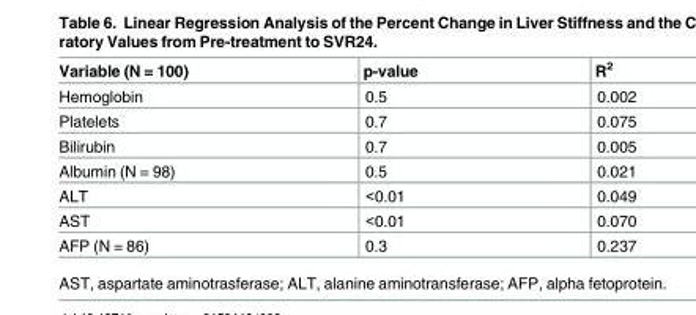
<table><thead><tr><td>Variable (N = 100)</td><td>p-value</td><td>R<sup>2</sup></td></tr></thead><tbody><tr><td>Hemoglobin</td><td>0.5</td><td>0.002</td></tr><tr><td>Platelets</td><td>0.7</td><td>0.075</td></tr><tr><td>Bilirubin</td><td>0.7</td><td>0.005</td></tr><tr><td>Albumin (N = 98)</td><td>0.5</td><td>0.021</td></tr><tr><td>ALT</td><td>&lt;0.01</td><td>0.049</td></tr><tr><td>AST</td><td>&lt;0.01</td><td>0.070</td></tr><tr><td>AFP (N = 86)</td><td>0.3</td><td>0.237</td></tr></tbody></table>